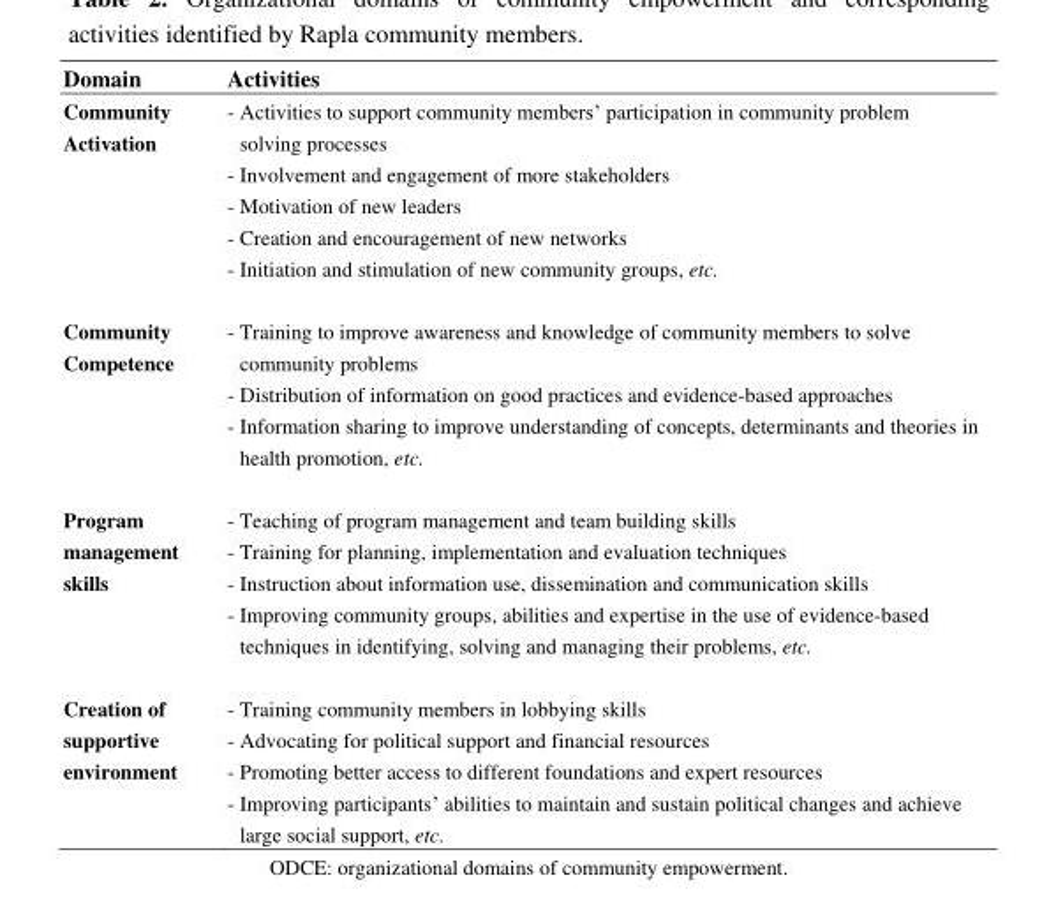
<table><thead><tr><td>Domain</td><td>Activities</td></tr></thead><tbody><tr><td>Community Activation</td><td>- Activities to support community members‘ participation in community problem solving processes - Involvement and engagement of more stakeholders - Motivation of new leaders - Creation and encouragement of new networks - Initiation and stimulation of new community groups, etc.</td></tr><tr><td>Community Competence</td><td>- Training to improve awareness and knowledge of community members to solve community problems - Distribution of information on good practices and evidence-based approaches - Information sharing to improve understanding of concepts, determinants and theories in health promotion, etc.</td></tr><tr><td>Program management skills</td><td>- Teaching of program management and team building skills - Training for planning, implementation and evaluation techniques - Instruction about information use, dissemination and communication skills - Improving community groups, abilities and expertise in the use of evidence-based techniques in identifying, solving and managing their problems, etc.</td></tr><tr><td>Creation of supportive environment</td><td>- Training community members in lobbying skills - Advocating for political support and financial resources - Promoting better access to different foundations and expert resources - Improving participants‘ abilities to maintain and sustain political changes and achieve large social support, etc.</td></tr></tbody></table>